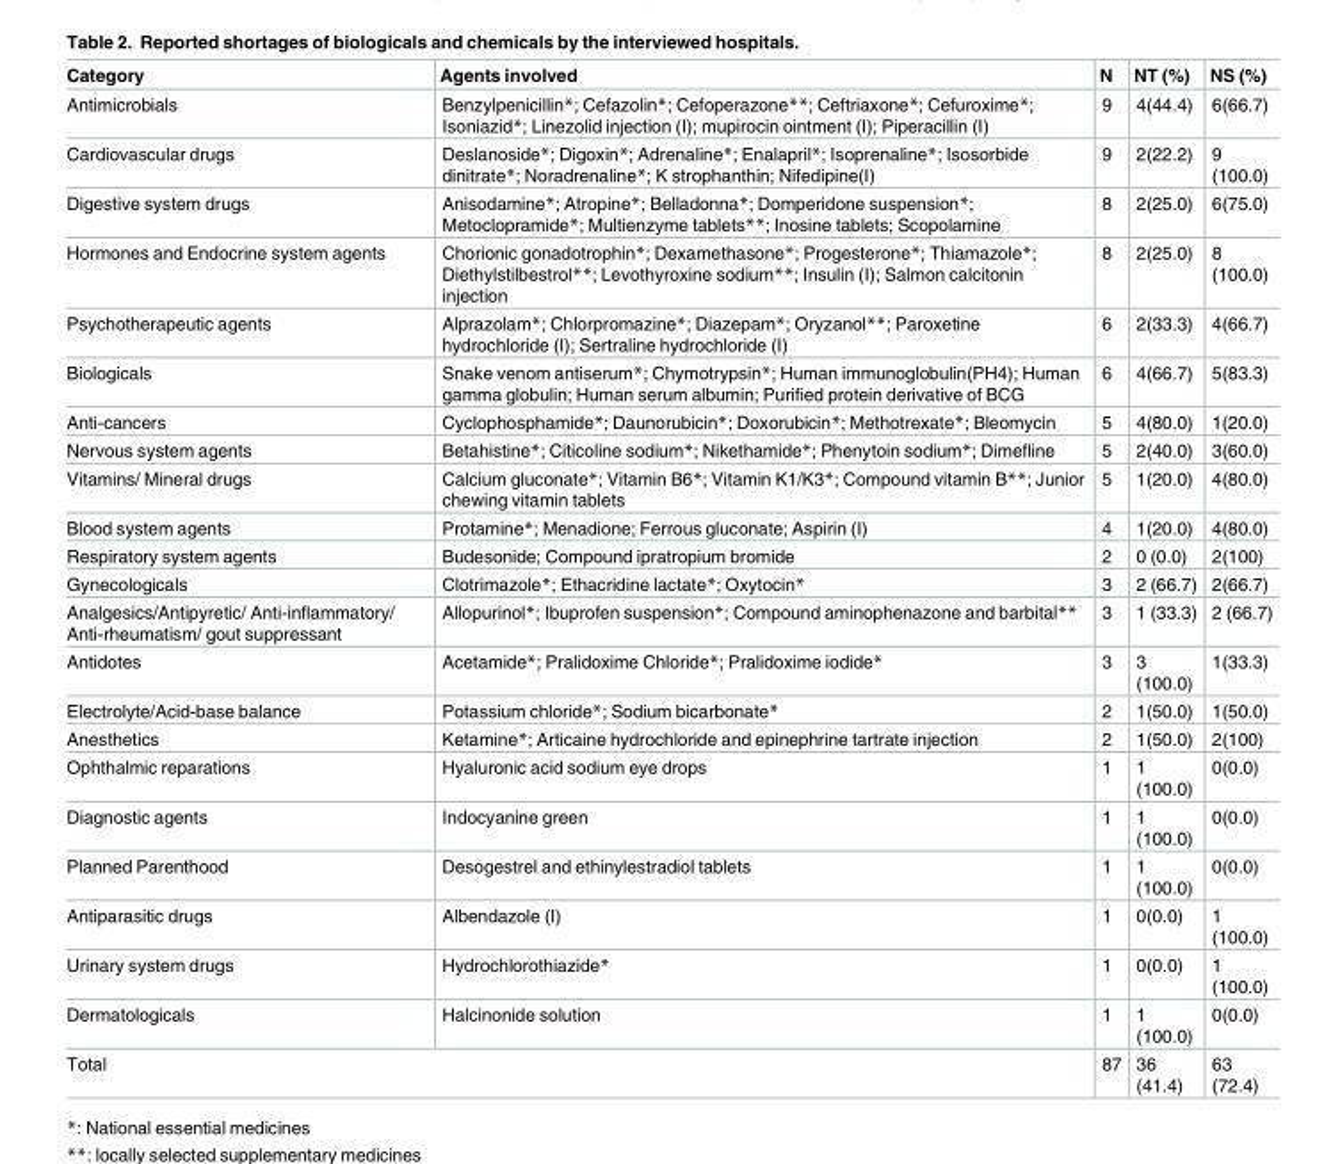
<table><thead><tr><td>Category</td><td>Agents involved</td><td>N</td><td>NT (%)</td><td>NS (%)</td></tr></thead><tbody><tr><td>Antimicrobials</td><td>Benzylpenicillin*; Cefazolin*; Cefoperazone**; Ceftriaxone*; Cefuroxime*; Isoniazid*; Linezolid injection (I); mupirocin ointment (I); Piperacillin (I)</td><td>9</td><td>4(44.4)</td><td>6(66.7)</td></tr><tr><td>Cardiovascular drugs</td><td>Deslanoside*; Digoxin*; Adrenaline*; Enalapril*; Isoprenaline*; Isosorbide dinitrate*; Noradrenaline*; K strophanthin; Nifedipine(I)</td><td>9</td><td>2(22.2)</td><td>9 (100.0)</td></tr><tr><td>Digestive system drugs</td><td>Anisodamine*; Atropine*; Belladonna*; Domperidone suspension*; Metoclopramide*; Multienzyme tablets**; Inosine tablets; Scopolamine</td><td>8</td><td>2(25.0)</td><td>6(75.0)</td></tr><tr><td>Hormones and Endocrine system agents</td><td>Chorionic gonadotrophin*; Dexamethasone*; Progesterone*; Thiamazole*; Diethylstilbestrol**; Levothyroxine sodium**; Insulin (I); Salmon calcitonin injection</td><td>8</td><td>2(25.0)</td><td>8 (100.0)</td></tr><tr><td>Psychotherapeutic agents</td><td>Alprazolam*; Chlorpromazine*; Diazepam*; Oryzanol**; Paroxetine hydrochloride (I); Sertraline hydrochloride (I)</td><td>6</td><td>2(33.3)</td><td>4(66.7)</td></tr><tr><td>Biologicals</td><td>Snake venom antiserum*; Chymotrypsin*; Human immunoglobulin(PH4); Human gamma globulin; Human serum albumin; Purified protein derivative of BCG</td><td>6</td><td>4(66.7)</td><td>5(83.3)</td></tr><tr><td>Anti-cancers</td><td>Cyclophosphamide*; Daunorubicin*; Doxorubicin*; Methotrexate*; Bleomycin</td><td>5</td><td>4(80.0)</td><td>1(20.0)</td></tr><tr><td>Nervous system agents</td><td>Betahistine*; Citicoline sodium*; Nikethamide*; Phenytoin sodium*; Dimefline</td><td>5</td><td>2(40.0)</td><td>3(60.0)</td></tr><tr><td>Vitamins/ Mineral drugs</td><td>Calcium gluconate*; Vitamin B6*; Vitamin K1/K3*; Compound vitamin B**; Junior chewing vitamin tablets</td><td>5</td><td>1(20.0)</td><td>4(80.0)</td></tr><tr><td>Blood system agents</td><td>Protamine*; Menadione; Ferrous gluconate; Aspirin (I)</td><td>4</td><td>1(20.0)</td><td>4(80.0)</td></tr><tr><td>Respiratory system agents</td><td>Budesonide; Compound ipratropium bromide</td><td>2</td><td>0 (0.0)</td><td>2(100)</td></tr><tr><td>Gynecologicals</td><td>Clotrimazole*; Ethacridine lactate*; Oxytocin*</td><td>3</td><td>2 (66.7)</td><td>2(66.7)</td></tr><tr><td>Analgesics/Antipyretic/ Anti-inflammatory/ Anti-rheumatism/ gout suppressant</td><td>Allopurinol*; Ibuprofen suspension*; Compound aminophenazone and barbital**</td><td>3</td><td>1 (33.3)</td><td>2 (66.7)</td></tr><tr><td>Antidotes</td><td>Acetamide*; Pralidoxime Chloride*; Pralidoxime iodide*</td><td>3</td><td>3 (100.0)</td><td>1(33.3)</td></tr><tr><td>Electrolyte/Acid-base balance</td><td>Potassium chloride*; Sodium bicarbonate*</td><td>2</td><td>1(50.0)</td><td>1(50.0)</td></tr><tr><td>Anesthetics</td><td>Ketamine*; Articaine hydrochloride and epinephrine tartrate injection</td><td>2</td><td>1(50.0)</td><td>2(100)</td></tr><tr><td>Ophthalmic reparations</td><td>Hyaluronic acid sodium eye drops</td><td>1</td><td>1 (100.0)</td><td>0(0.0)</td></tr><tr><td>Diagnostic agents</td><td>Indocyanine green</td><td>1</td><td>1 (100.0)</td><td>0(0.0)</td></tr><tr><td>Planned Parenthood</td><td>Desogestrel and ethinylestradiol tablets</td><td>1</td><td>1 (100.0)</td><td>0(0.0)</td></tr><tr><td>Antiparasitic drugs</td><td>Albendazole (I)</td><td>1</td><td>0(0.0)</td><td>1 (100.0)</td></tr><tr><td>Urinary system drugs</td><td>Hydrochlorothiazide*</td><td>1</td><td>0(0.0)</td><td>1 (100.0)</td></tr><tr><td>Dermatologicals</td><td>Halcinonide solution</td><td>1</td><td>1 (100.0)</td><td>0(0.0)</td></tr><tr><td colspan="2">Total</td><td>87</td><td>36 (41.4)</td><td>63 (72.4)</td></tr></tbody></table>